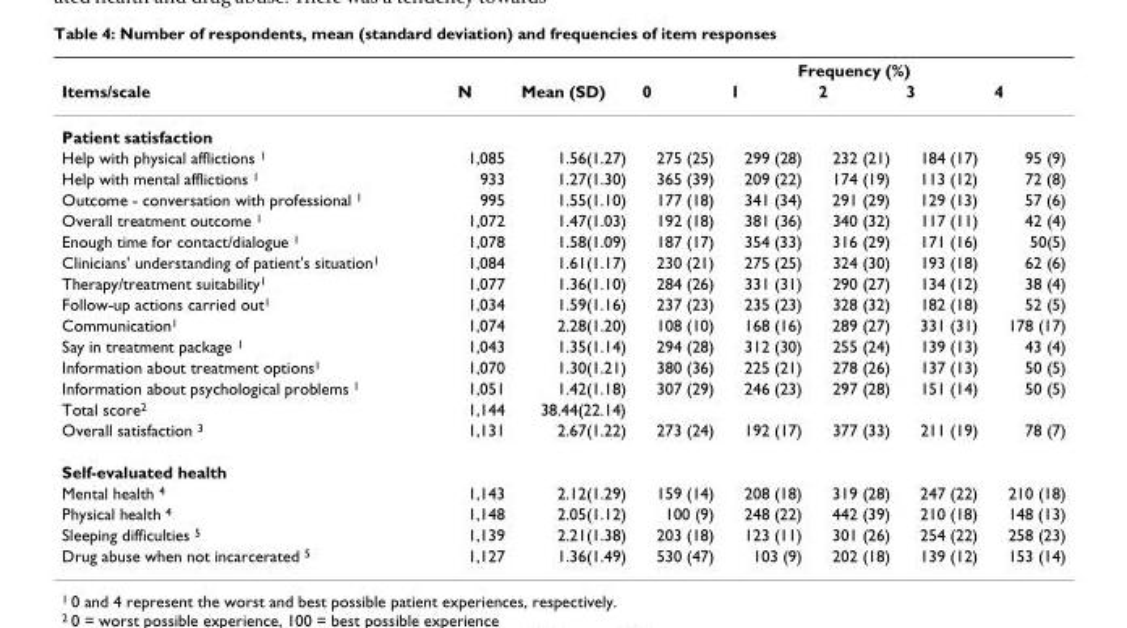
<table><thead><tr><td rowspan="2">Items/scale</td><td rowspan="2">N</td><td rowspan="2">Mean (SD)</td><td colspan="5">Frequency (%)</td></tr><tr><td>0</td><td>1</td><td>2</td><td>3</td><td>4</td></tr></thead><tbody><tr><td colspan="8">Patient satisfaction</td></tr><tr><td>Help with physical afflictions <sup>1</sup></td><td>1,085</td><td>1.56(1.27)</td><td>275 (25)</td><td>299 (28)</td><td>232 (21)</td><td>184 (17)</td><td>95 (9)</td></tr><tr><td>Help with mental afflictions <sup>1</sup></td><td>933</td><td>1.27(1.30)</td><td>365 (39)</td><td>209 (22)</td><td>174 (19)</td><td>113 (12)</td><td>72 (8)</td></tr><tr><td>Outcome - conversation with professional <sup>1</sup></td><td>995</td><td>1.55(1.10)</td><td>177 (18)</td><td>341 (34)</td><td>291 (29)</td><td>129 (13)</td><td>57 (6)</td></tr><tr><td>Overall treatment outcome <sup>1</sup></td><td>1,072</td><td>1.47(1.03)</td><td>192 (18)</td><td>381 (36)</td><td>340 (32)</td><td>117 (11)</td><td>42 (4)</td></tr><tr><td>Enough time for contact/dialogue <sup>1</sup></td><td>1,078</td><td>1.58(1.09)</td><td>187 (17)</td><td>354 (33)</td><td>316 (29)</td><td>171 (16)</td><td>50(5)</td></tr><tr><td>Clinicians&#x27; understanding of patient&#x27;s situation<sup>1</sup></td><td>1,084</td><td>1.61(1.17)</td><td>230 (21)</td><td>275 (25)</td><td>324 (30)</td><td>193 (18)</td><td>62 (6)</td></tr><tr><td>Therapy/treatment suitability<sup>1</sup></td><td>1,077</td><td>1.36(1.10)</td><td>284 (26)</td><td>331 (31)</td><td>290 (27)</td><td>134 (12)</td><td>38 (4)</td></tr><tr><td>Follow-up actions carried out<sup>1</sup></td><td>1,034</td><td>1.59(1.16)</td><td>237 (23)</td><td>235 (23)</td><td>328 (32)</td><td>182 (18)</td><td>52 (5)</td></tr><tr><td>Communication<sup>1</sup></td><td>1,074</td><td>2.28(1.20)</td><td>108 (10)</td><td>168 (16)</td><td>289 (27)</td><td>331 (31)</td><td>178 (17)</td></tr><tr><td>Say in treatment package <sup>1</sup></td><td>1,043</td><td>1.35(1.14)</td><td>294 (28)</td><td>312 (30)</td><td>255 (24)</td><td>139 (13)</td><td>43 (4)</td></tr><tr><td>Information about treatment options<sup>1</sup></td><td>1,070</td><td>1.30(1.21)</td><td>380 (36)</td><td>225 (21)</td><td>278 (26)</td><td>137 (13)</td><td>50 (5)</td></tr><tr><td>Information about psychological problems <sup>1</sup></td><td>1,051</td><td>1.42(1.18)</td><td>307 (29)</td><td>246 (23)</td><td>297 (28)</td><td>151 (14)</td><td>50 (5)</td></tr><tr><td>Total score<sup>2</sup></td><td>1,144</td><td>38.44(22.14)</td><td></td><td></td><td></td><td></td><td></td></tr><tr><td>Overall satisfaction <sup>3</sup></td><td>1,131</td><td>2.67(1.22)</td><td>273 (24)</td><td>192 (17)</td><td>377 (33)</td><td>211 (19)</td><td>78 (7)</td></tr><tr><td colspan="8">Self-evaluated health</td></tr><tr><td>Mental health <sup>4</sup></td><td>1,143</td><td>2.12(1.29)</td><td>159 (14)</td><td>208 (18)</td><td>319 (28)</td><td>247 (22)</td><td>210 (18)</td></tr><tr><td>Physical health <sup>4</sup></td><td>1,148</td><td>2.05(1.12)</td><td>100 (9)</td><td>248 (22)</td><td>442 (39)</td><td>210 (18)</td><td>148 (13)</td></tr><tr><td>Sleeping difficulties <sup>5</sup></td><td>1,139</td><td>2.21(1.38)</td><td>203 (18)</td><td>123 (11)</td><td>301 (26)</td><td>254 (22)</td><td>258 (23)</td></tr><tr><td>Drug abuse when not incarcerated <sup>5</sup></td><td>1,127</td><td>1.36(1.49)</td><td>530 (47)</td><td>103 (9)</td><td>202 (18)</td><td>139 (12)</td><td>153 (14)</td></tr></tbody></table>